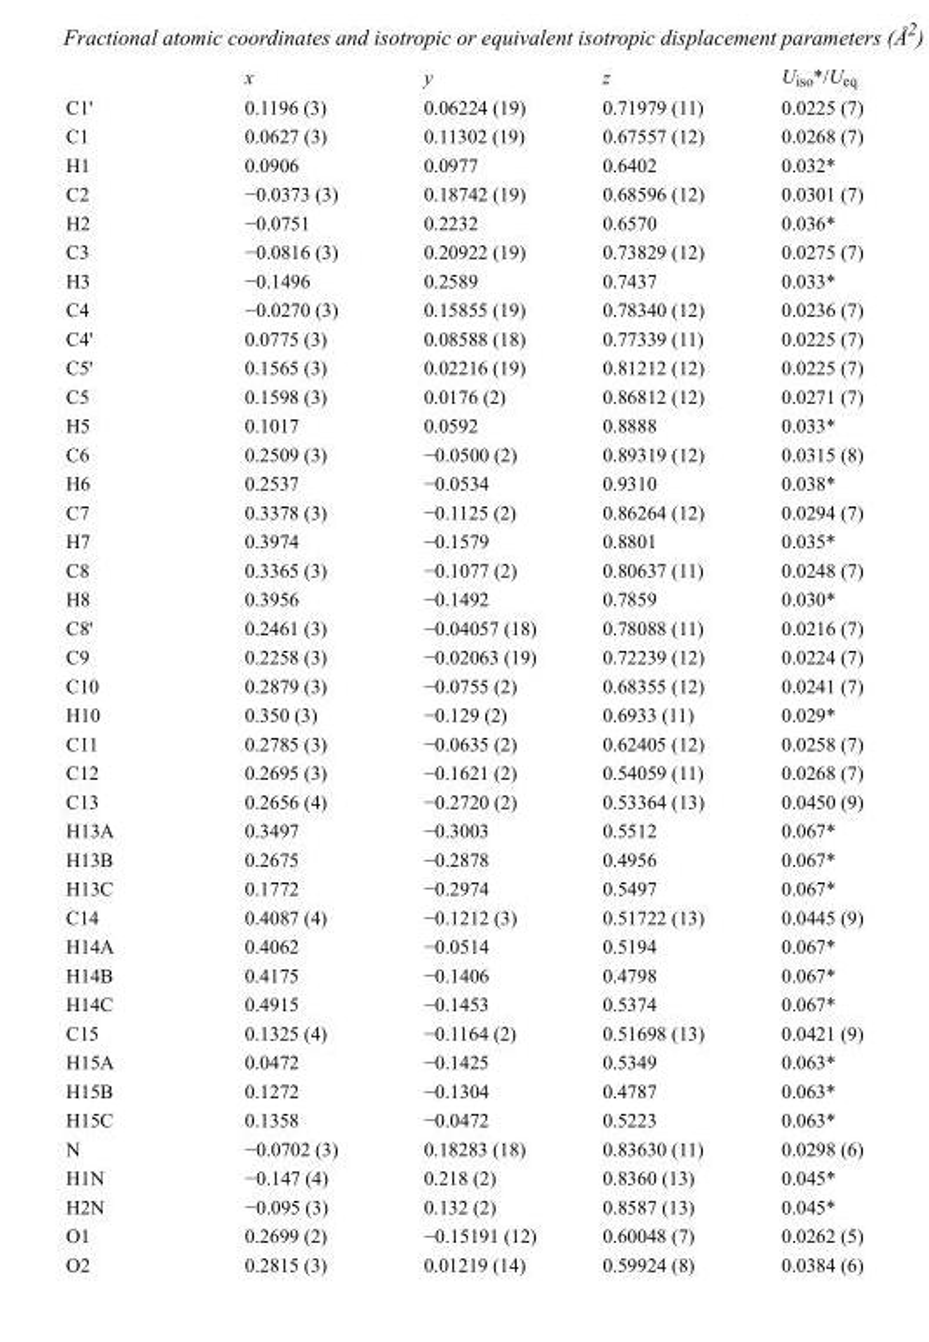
<table><thead><tr><td></td><td>x</td><td>y</td><td>z</td><td>U<sub>iso</sub>*/U<sub>eq</sub></td></tr></thead><tbody><tr><td>C1&#x27;</td><td>0.1196 (3)</td><td>0.06224 (19)</td><td>0.71979 (11)</td><td>0.0225 (7)</td></tr><tr><td>C1</td><td>0.0627 (3)</td><td>0.11302 (19)</td><td>0.67557 (12)</td><td>0.0268 (7)</td></tr><tr><td>H1</td><td>0.0906</td><td>0.0977</td><td>0.6402</td><td>0.032*</td></tr><tr><td>C2</td><td>−0.0373 (3)</td><td>0.18742 (19)</td><td>0.68596 (12)</td><td>0.0301 (7)</td></tr><tr><td>H2</td><td>−0.0751</td><td>0.2232</td><td>0.6570</td><td>0.036*</td></tr><tr><td>C3</td><td>−0.0816 (3)</td><td>0.20922 (19)</td><td>0.73829 (12)</td><td>0.0275 (7)</td></tr><tr><td>H3</td><td>−0.1496</td><td>0.2589</td><td>0.7437</td><td>0.033*</td></tr><tr><td>C4</td><td>−0.0270 (3)</td><td>0.15855 (19)</td><td>0.78340 (12)</td><td>0.0236 (7)</td></tr><tr><td>C4&#x27;</td><td>0.0775 (3)</td><td>0.08588 (18)</td><td>0.77339 (11)</td><td>0.0225 (7)</td></tr><tr><td>C5&#x27;</td><td>0.1565 (3)</td><td>0.02216 (19)</td><td>0.81212 (12)</td><td>0.0225 (7)</td></tr><tr><td>C5</td><td>0.1598 (3)</td><td>0.0176 (2)</td><td>0.86812 (12)</td><td>0.0271 (7)</td></tr><tr><td>H5</td><td>0.1017</td><td>0.0592</td><td>0.8888</td><td>0.033*</td></tr><tr><td>C6</td><td>0.2509 (3)</td><td>−0.0500 (2)</td><td>0.89319 (12)</td><td>0.0315 (8)</td></tr><tr><td>H6</td><td>0.2537</td><td>−0.0534</td><td>0.9310</td><td>0.038*</td></tr><tr><td>C7</td><td>0.3378 (3)</td><td>−0.1125 (2)</td><td>0.86264 (12)</td><td>0.0294 (7)</td></tr><tr><td>H7</td><td>0.3974</td><td>−0.1579</td><td>0.8801</td><td>0.035*</td></tr><tr><td>C8</td><td>0.3365 (3)</td><td>−0.1077 (2)</td><td>0.80637 (11)</td><td>0.0248 (7)</td></tr><tr><td>H8</td><td>0.3956</td><td>−0.1492</td><td>0.7859</td><td>0.030*</td></tr><tr><td>C8&#x27;</td><td>0.2461 (3)</td><td>−0.04057 (18)</td><td>0.78088 (11)</td><td>0.0216 (7)</td></tr><tr><td>C9</td><td>0.2258 (3)</td><td>−0.02063 (19)</td><td>0.72239 (12)</td><td>0.0224 (7)</td></tr><tr><td>C10</td><td>0.2879 (3)</td><td>−0.0755 (2)</td><td>0.68355 (12)</td><td>0.0241 (7)</td></tr><tr><td>H10</td><td>0.350 (3)</td><td>−0.129 (2)</td><td>0.6933 (11)</td><td>0.029*</td></tr><tr><td>C11</td><td>0.2785 (3)</td><td>−0.0635 (2)</td><td>0.62405 (12)</td><td>0.0258 (7)</td></tr><tr><td>C12</td><td>0.2695 (3)</td><td>−0.1621 (2)</td><td>0.54059 (11)</td><td>0.0268 (7)</td></tr><tr><td>C13</td><td>0.2656 (4)</td><td>−0.2720 (2)</td><td>0.53364 (13)</td><td>0.0450 (9)</td></tr><tr><td>H13A</td><td>0.3497</td><td>−0.3003</td><td>0.5512</td><td>0.067*</td></tr><tr><td>H13B</td><td>0.2675</td><td>−0.2878</td><td>0.4956</td><td>0.067*</td></tr><tr><td>H13C</td><td>0.1772</td><td>−0.2974</td><td>0.5497</td><td>0.067*</td></tr><tr><td>C14</td><td>0.4087 (4)</td><td>−0.1212 (3)</td><td>0.51722 (13)</td><td>0.0445 (9)</td></tr><tr><td>H14A</td><td>0.4062</td><td>−0.0514</td><td>0.5194</td><td>0.067*</td></tr><tr><td>H14B</td><td>0.4175</td><td>−0.1406</td><td>0.4798</td><td>0.067*</td></tr><tr><td>H14C</td><td>0.4915</td><td>−0.1453</td><td>0.5374</td><td>0.067*</td></tr><tr><td>C15</td><td>0.1325 (4)</td><td>−0.1164 (2)</td><td>0.51698 (13)</td><td>0.0421 (9)</td></tr><tr><td>H15A</td><td>0.0472</td><td>−0.1425</td><td>0.5349</td><td>0.063*</td></tr><tr><td>H15B</td><td>0.1272</td><td>−0.1304</td><td>0.4787</td><td>0.063*</td></tr><tr><td>H15C</td><td>0.1358</td><td>−0.0472</td><td>0.5223</td><td>0.063*</td></tr><tr><td>N</td><td>−0.0702 (3)</td><td>0.18283 (18)</td><td>0.83630 (11)</td><td>0.0298 (6)</td></tr><tr><td>H1N</td><td>−0.147 (4)</td><td>0.218 (2)</td><td>0.8360 (13)</td><td>0.045*</td></tr><tr><td>H2N</td><td>−0.095 (3)</td><td>0.132 (2)</td><td>0.8587 (13)</td><td>0.045*</td></tr><tr><td>O1</td><td>0.2699 (2)</td><td>−0.15191 (12)</td><td>0.60048 (7)</td><td>0.0262 (5)</td></tr><tr><td>O2</td><td>0.2815 (3)</td><td>0.01219 (14)</td><td>0.59924 (8)</td><td>0.0384 (6)</td></tr></tbody></table>